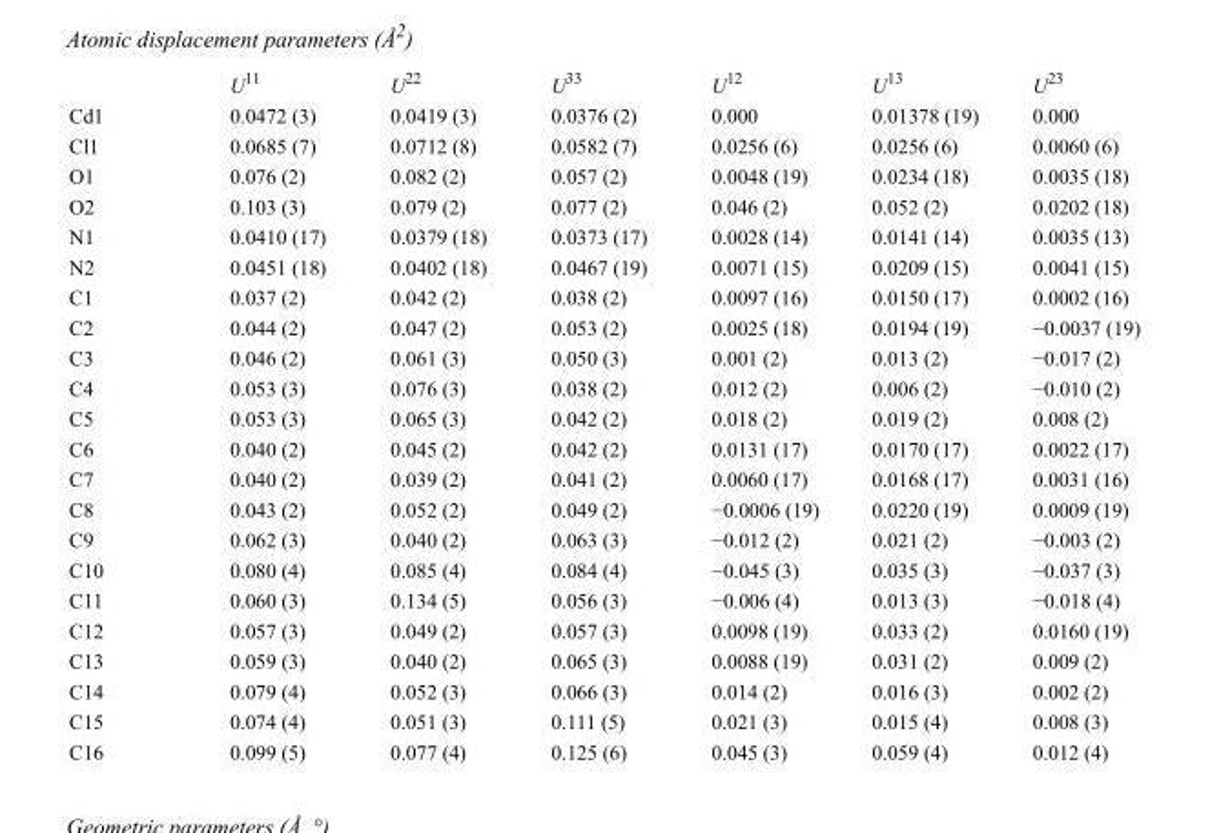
<table><thead><tr><td></td><td>U<sup>11</sup></td><td>U<sup>22</sup></td><td>U<sup>33</sup></td><td>U<sup>12</sup></td><td>U<sup>13</sup></td><td>U<sup>23</sup></td></tr></thead><tbody><tr><td>Cd1</td><td>0.0472 (3)</td><td>0.0419 (3)</td><td>0.0376 (2)</td><td>0.000</td><td>0.01378 (19)</td><td>0.000</td></tr><tr><td>Cl1</td><td>0.0685 (7)</td><td>0.0712 (8)</td><td>0.0582 (7)</td><td>0.0256 (6)</td><td>0.0256 (6)</td><td>0.0060 (6)</td></tr><tr><td>O1</td><td>0.076 (2)</td><td>0.082 (2)</td><td>0.057 (2)</td><td>0.0048 (19)</td><td>0.0234 (18)</td><td>0.0035 (18)</td></tr><tr><td>O2</td><td>0.103 (3)</td><td>0.079 (2)</td><td>0.077 (2)</td><td>0.046 (2)</td><td>0.052 (2)</td><td>0.0202 (18)</td></tr><tr><td>N1</td><td>0.0410 (17)</td><td>0.0379 (18)</td><td>0.0373 (17)</td><td>0.0028 (14)</td><td>0.0141 (14)</td><td>0.0035 (13)</td></tr><tr><td>N2</td><td>0.0451 (18)</td><td>0.0402 (18)</td><td>0.0467 (19)</td><td>0.0071 (15)</td><td>0.0209 (15)</td><td>0.0041 (15)</td></tr><tr><td>C1</td><td>0.037 (2)</td><td>0.042 (2)</td><td>0.038 (2)</td><td>0.0097 (16)</td><td>0.0150 (17)</td><td>0.0002 (16)</td></tr><tr><td>C2</td><td>0.044 (2)</td><td>0.047 (2)</td><td>0.053 (2)</td><td>0.0025 (18)</td><td>0.0194 (19)</td><td>−0.0037 (19)</td></tr><tr><td>C3</td><td>0.046 (2)</td><td>0.061 (3)</td><td>0.050 (3)</td><td>0.001 (2)</td><td>0.013 (2)</td><td>−0.017 (2)</td></tr><tr><td>C4</td><td>0.053 (3)</td><td>0.076 (3)</td><td>0.038 (2)</td><td>0.012 (2)</td><td>0.006 (2)</td><td>−0.010 (2)</td></tr><tr><td>C5</td><td>0.053 (3)</td><td>0.065 (3)</td><td>0.042 (2)</td><td>0.018 (2)</td><td>0.019 (2)</td><td>0.008 (2)</td></tr><tr><td>C6</td><td>0.040 (2)</td><td>0.045 (2)</td><td>0.042 (2)</td><td>0.0131 (17)</td><td>0.0170 (17)</td><td>0.0022 (17)</td></tr><tr><td>C7</td><td>0.040 (2)</td><td>0.039 (2)</td><td>0.041 (2)</td><td>0.0060 (17)</td><td>0.0168 (17)</td><td>0.0031 (16)</td></tr><tr><td>C8</td><td>0.043 (2)</td><td>0.052 (2)</td><td>0.049 (2)</td><td>−0.0006 (19)</td><td>0.0220 (19)</td><td>0.0009 (19)</td></tr><tr><td>C9</td><td>0.062 (3)</td><td>0.040 (2)</td><td>0.063 (3)</td><td>−0.012 (2)</td><td>0.021 (2)</td><td>−0.003 (2)</td></tr><tr><td>C10</td><td>0.080 (4)</td><td>0.085 (4)</td><td>0.084 (4)</td><td>−0.045 (3)</td><td>0.035 (3)</td><td>−0.037 (3)</td></tr><tr><td>C11</td><td>0.060 (3)</td><td>0.134 (5)</td><td>0.056 (3)</td><td>−0.006 (4)</td><td>0.013 (3)</td><td>−0.018 (4)</td></tr><tr><td>C12</td><td>0.057 (3)</td><td>0.049 (2)</td><td>0.057 (3)</td><td>0.0098 (19)</td><td>0.033 (2)</td><td>0.0160 (19)</td></tr><tr><td>C13</td><td>0.059 (3)</td><td>0.040 (2)</td><td>0.065 (3)</td><td>0.0088 (19)</td><td>0.031 (2)</td><td>0.009 (2)</td></tr><tr><td>C14</td><td>0.079 (4)</td><td>0.052 (3)</td><td>0.066 (3)</td><td>0.014 (2)</td><td>0.016 (3)</td><td>0.002 (2)</td></tr><tr><td>C15</td><td>0.074 (4)</td><td>0.051 (3)</td><td>0.111 (5)</td><td>0.021 (3)</td><td>0.015 (4)</td><td>0.008 (3)</td></tr><tr><td>C16</td><td>0.099 (5)</td><td>0.077 (4)</td><td>0.125 (6)</td><td>0.045 (3)</td><td>0.059 (4)</td><td>0.012 (4)</td></tr></tbody></table>